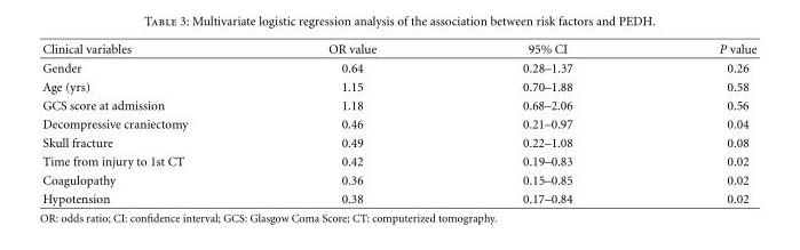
<table><thead><tr><td>Clinical variables</td><td>OR value</td><td>95% CI</td><td>P value</td></tr></thead><tbody><tr><td>Gender</td><td>0.64</td><td>0.28–1.37</td><td>0.26</td></tr><tr><td>Age (yrs)</td><td>1.15</td><td>0.70–1.88</td><td>0.58</td></tr><tr><td>GCS score at admission</td><td>1.18</td><td>0.68–2.06</td><td>0.56</td></tr><tr><td>Decompressive craniectomy</td><td>0.46</td><td>0.21–0.97</td><td>0.04</td></tr><tr><td>Skull fracture</td><td>0.49</td><td>0.22–1.08</td><td>0.08</td></tr><tr><td>Time from injury to 1st CT</td><td>0.42</td><td>0.19–0.83</td><td>0.02</td></tr><tr><td>Coagulopathy</td><td>0.36</td><td>0.15–0.85</td><td>0.02</td></tr><tr><td>Hypotension</td><td>0.38</td><td>0.17–0.84</td><td>0.02</td></tr></tbody></table>